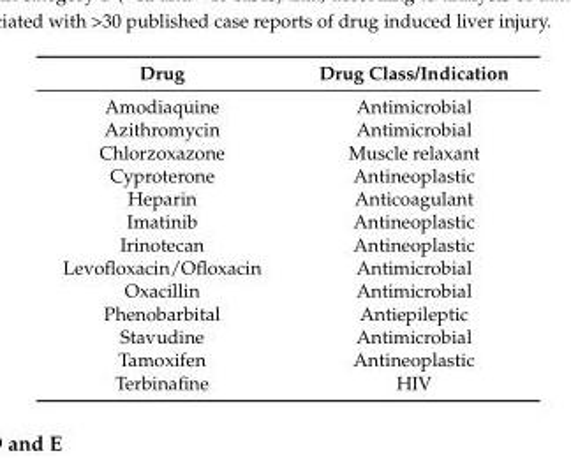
<table><thead><tr><td>Drug</td><td>Drug Class/Indication</td></tr></thead><tbody><tr><td>Amodiaquine</td><td>Antimicrobial</td></tr><tr><td>Azithromycin</td><td>Antimicrobial</td></tr><tr><td>Chlorzoxazone</td><td>Muscle relaxant</td></tr><tr><td>Cyproterone</td><td>Antineoplastic</td></tr><tr><td>Heparin</td><td>Anticoagulant</td></tr><tr><td>Imatinib</td><td>Antineoplastic</td></tr><tr><td>Irinotecan</td><td>Antineoplastic</td></tr><tr><td>Levofloxacin/Ofloxacin</td><td>Antimicrobial</td></tr><tr><td>Oxacillin</td><td>Antimicrobial</td></tr><tr><td>Phenobarbital</td><td>Antiepileptic</td></tr><tr><td>Stavudine</td><td>Antimicrobial</td></tr><tr><td>Tamoxifen</td><td>Antineoplastic</td></tr><tr><td>Terbinafine</td><td>HIV</td></tr></tbody></table>